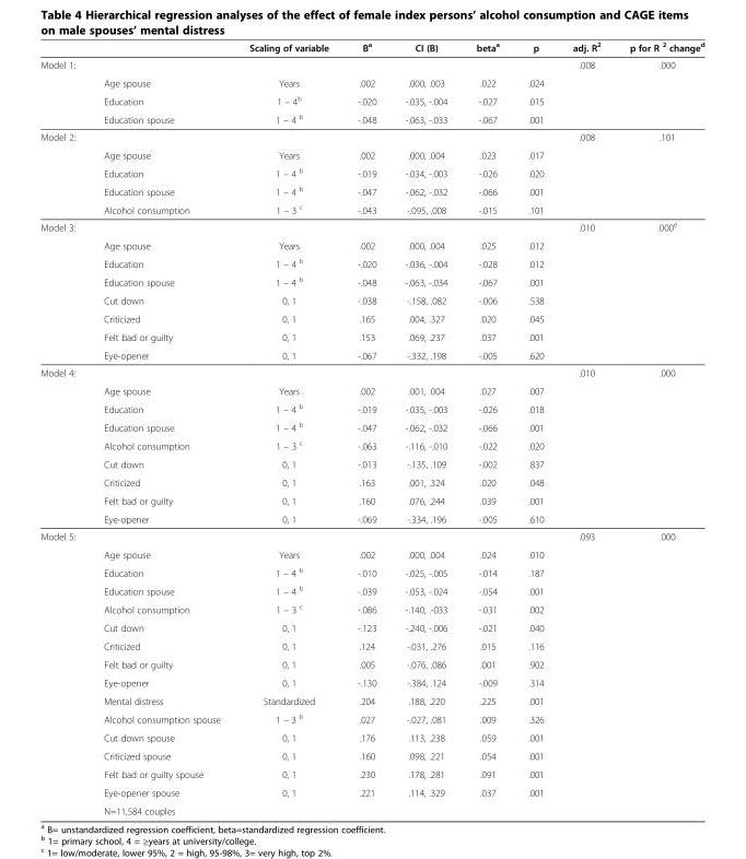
<table><thead><tr><td></td><td></td><td>Scaling of variable</td><td>B<sup>a</sup></td><td>CI (B)</td><td>beta<sup>a</sup></td><td>p</td><td>adj. R<sup>2</sup></td><td>p for R <sup>2</sup> change<sup>d</sup></td></tr></thead><tbody><tr><td rowspan="4">Model 1:</td><td></td><td></td><td></td><td></td><td></td><td></td><td>.008</td><td>.000</td></tr><tr><td>Age spouse</td><td>Years</td><td>.002</td><td>.000, .003</td><td>.022</td><td>.024</td><td rowspan="2"></td><td rowspan="2"></td></tr><tr><td>Education</td><td>1 – 4<sup>b</sup></td><td>-.020</td><td>-.035, -.004</td><td>-.027</td><td>.015</td></tr><tr><td>Education spouse</td><td>1 – 4 <sup>b</sup></td><td>-.048</td><td>-.063, -.033</td><td>-.067</td><td>.001</td><td></td><td></td></tr><tr><td rowspan="5">Model 2:</td><td></td><td></td><td></td><td></td><td></td><td></td><td>.008</td><td>.101</td></tr><tr><td>Age spouse</td><td>Years</td><td>.002</td><td>.000, .004</td><td>.023</td><td>.017</td><td rowspan="3"></td><td rowspan="3"></td></tr><tr><td>Education</td><td>1 – 4 <sup>b</sup></td><td>-.019</td><td>-.034, -.003</td><td>-.026</td><td>.020</td></tr><tr><td>Education spouse</td><td>1 – 4 <sup>b</sup></td><td>-.047</td><td>-.062, -.032</td><td>-.066</td><td>.001</td></tr><tr><td>Alcohol consumption</td><td>1 – 3 <sup>c</sup></td><td>-.043</td><td>-.095, .008</td><td>-.015</td><td>.101</td><td></td><td></td></tr><tr><td rowspan="8">Model 3:</td><td></td><td></td><td></td><td></td><td></td><td></td><td>.010</td><td>.000<sup>e</sup></td></tr><tr><td>Age spouse</td><td>Years</td><td>.002</td><td>.000, .004</td><td>.025</td><td>.012</td><td rowspan="6"></td><td rowspan="6"></td></tr><tr><td>Education</td><td>1 – 4 <sup>b</sup></td><td>-.020</td><td>-.036, -.004</td><td>-.028</td><td>.012</td></tr><tr><td>Education spouse</td><td>1 – 4 <sup>b</sup></td><td>-.048</td><td>-.063, -.034</td><td>-.067</td><td>.001</td></tr><tr><td>Cut down</td><td>0, 1</td><td>-.038</td><td>-.158, .082</td><td>-.006</td><td>.538</td></tr><tr><td>Criticized</td><td>0, 1</td><td>.165</td><td>.004, .327</td><td>.020</td><td>.045</td></tr><tr><td>Felt bad or guilty</td><td>0, 1</td><td>.153</td><td>.069, .237</td><td>.037</td><td>.001</td></tr><tr><td>Eye-opener</td><td>0, 1</td><td>-.067</td><td>-.332, .198</td><td>-.005</td><td>.620</td><td></td><td></td></tr><tr><td rowspan="9">Model 4:</td><td></td><td></td><td></td><td></td><td></td><td></td><td>.010</td><td>.000</td></tr><tr><td>Age spouse</td><td>Years</td><td>.002</td><td>.001, .004</td><td>.027</td><td>.007</td><td rowspan="7"></td><td rowspan="7"></td></tr><tr><td>Education</td><td>1 – 4 <sup>b</sup></td><td>-.019</td><td>-.035, -.003</td><td>-.026</td><td>.018</td></tr><tr><td>Education spouse</td><td>1 – 4 <sup>b</sup></td><td>-.047</td><td>-.062, -.032</td><td>-.066</td><td>.001</td></tr><tr><td>Alcohol consumption</td><td>1 – 3 <sup>c</sup></td><td>-.063</td><td>-.116, -.010</td><td>-.022</td><td>.020</td></tr><tr><td>Cut down</td><td>0, 1</td><td>-.013</td><td>-.135, .109</td><td>-.002</td><td>.837</td></tr><tr><td>Criticized</td><td>0, 1</td><td>.163</td><td>.001, .324</td><td>.020</td><td>.048</td></tr><tr><td>Felt bad or guilty</td><td>0, 1</td><td>.160</td><td>.076, .244</td><td>.039</td><td>.001</td></tr><tr><td>Eye-opener</td><td>0, 1</td><td>-.069</td><td>-.334, .196</td><td>-.005</td><td>.610</td><td></td><td></td></tr><tr><td rowspan="16">Model 5:</td><td></td><td></td><td></td><td></td><td></td><td></td><td>.093</td><td>.000</td></tr><tr><td>Age spouse</td><td>Years</td><td>.002</td><td>.000, .004</td><td>.024</td><td>.010</td><td rowspan="14"></td><td rowspan="14"></td></tr><tr><td>Education</td><td>1 – 4 <sup>b</sup></td><td>-.010</td><td>-.025, -.005</td><td>-.014</td><td>.187</td></tr><tr><td>Education spouse</td><td>1 – 4 <sup>b</sup></td><td>-.039</td><td>-.053, -.024</td><td>-.054</td><td>.001</td></tr><tr><td>Alcohol consumption</td><td>1 – 3 <sup>c</sup></td><td>-.086</td><td>-.140, .-033</td><td>-.031</td><td>.002</td></tr><tr><td>Cut down</td><td>0, 1</td><td>-.123</td><td>-.240, -.006</td><td>-.021</td><td>.040</td></tr><tr><td>Criticized</td><td>0, 1</td><td>.124</td><td>-.031, .276</td><td>.015</td><td>.116</td></tr><tr><td>Felt bad or guilty</td><td>0, 1</td><td>.005</td><td>-.076, .086</td><td>.001</td><td>.902</td></tr><tr><td>Eye-opener</td><td>0, 1</td><td>-.130</td><td>-.384, .124</td><td>-.009</td><td>.314</td></tr><tr><td>Mental distress</td><td>Standardized</td><td>.204</td><td>.188, .220</td><td>.225</td><td>.001</td></tr><tr><td>Alcohol consumption spouse</td><td>1 – 3 <sup>b</sup></td><td>.027</td><td>-.027, .081</td><td>.009</td><td>.326</td></tr><tr><td>Cut down spouse</td><td>0, 1</td><td>.176</td><td>.113, .238</td><td>.059</td><td>.001</td></tr><tr><td>Criticized spouse</td><td>0, 1</td><td>.160</td><td>.098, .221</td><td>.054</td><td>.001</td></tr><tr><td>Felt bad or guilty spouse</td><td>0, 1</td><td>.230</td><td>.178, .281</td><td>.091</td><td>.001</td></tr><tr><td>Eye-opener spouse</td><td>0, 1</td><td>.221</td><td>.114, .329</td><td>.037</td><td>.001</td></tr><tr><td>N=11,584 couples</td><td></td><td></td><td></td><td></td><td></td><td></td><td></td></tr></tbody></table>